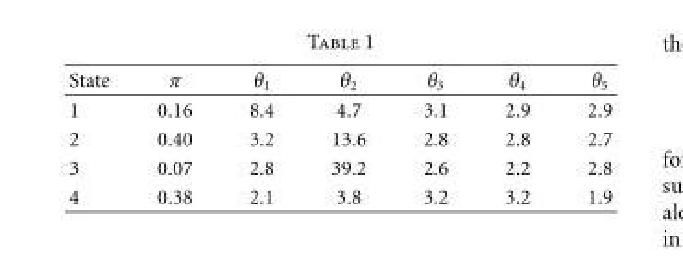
<table><thead><tr><td>State</td><td>π</td><td>θ<sub>1</sub></td><td>θ<sub>2</sub></td><td>θ<sub>3</sub></td><td>θ<sub>4</sub></td><td>θ<sub>5</sub></td></tr></thead><tbody><tr><td>1</td><td>0.16</td><td>8.4</td><td>4.7</td><td>3.1</td><td>2.9</td><td>2.9</td></tr><tr><td>2</td><td>0.40</td><td>3.2</td><td>13.6</td><td>2.8</td><td>2.8</td><td>2.7</td></tr><tr><td>3</td><td>0.07</td><td>2.8</td><td>39.2</td><td>2.6</td><td>2.2</td><td>2.8</td></tr><tr><td>4</td><td>0.38</td><td>2.1</td><td>3.8</td><td>3.2</td><td>3.2</td><td>1.9</td></tr></tbody></table>